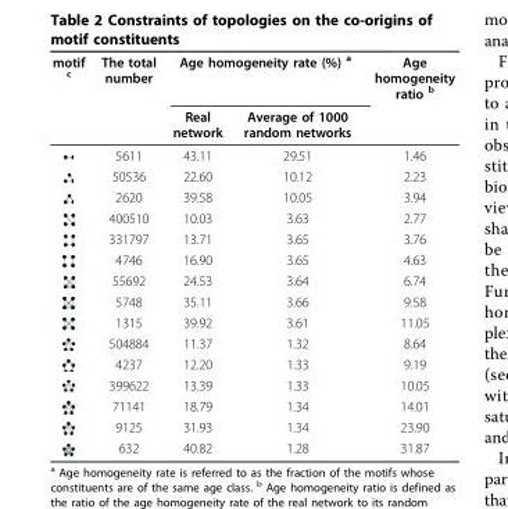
<table><thead><tr><td rowspan="2">motif <sup>c</sup></td><td rowspan="2">The total number</td><td colspan="2">Age homogeneity rate (%) <sup>a</sup></td><td rowspan="2">Age homogeneity ratio <sup>b</sup></td></tr><tr><td>Real network</td><td>Average of 1000 random networks</td></tr></thead><tbody><tr><td></td><td>5611</td><td>43.11</td><td>29.51</td><td>1.46</td></tr><tr><td></td><td>50536</td><td>22.60</td><td>10.12</td><td>2.23</td></tr><tr><td></td><td>2620</td><td>39.58</td><td>10.05</td><td>3.94</td></tr><tr><td></td><td>400510</td><td>10.03</td><td>3.63</td><td>2.77</td></tr><tr><td></td><td>331797</td><td>13.71</td><td>3.65</td><td>3.76</td></tr><tr><td></td><td>4746</td><td>16.90</td><td>3.65</td><td>4.63</td></tr><tr><td></td><td>55692</td><td>24.53</td><td>3.64</td><td>6.74</td></tr><tr><td></td><td>5748</td><td>35.11</td><td>3.66</td><td>9.58</td></tr><tr><td></td><td>1315</td><td>39.92</td><td>3.61</td><td>11.05</td></tr><tr><td></td><td>504884</td><td>11.37</td><td>1.32</td><td>8.64</td></tr><tr><td></td><td>4237</td><td>12.20</td><td>1.33</td><td>9.19</td></tr><tr><td></td><td>399622</td><td>13.39</td><td>1.33</td><td>10.05</td></tr><tr><td></td><td>71141</td><td>18.79</td><td>1.34</td><td>14.01</td></tr><tr><td></td><td>9125</td><td>31.93</td><td>1.34</td><td>23.90</td></tr><tr><td></td><td>632</td><td>40.82</td><td>1.28</td><td>31.87</td></tr></tbody></table>